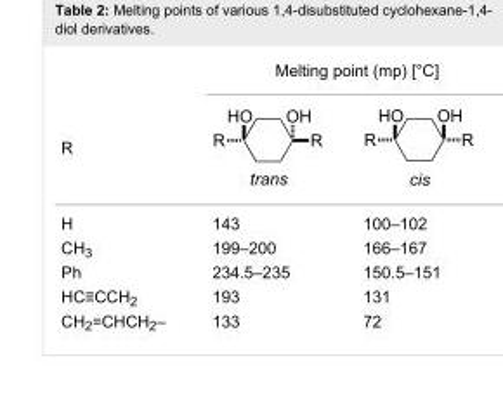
<table><thead><tr><td rowspan="2">R</td><td colspan="2">Melting point (mp) [°C]</td></tr><tr><td></td><td></td></tr></thead><tbody><tr><td>H</td><td>143</td><td>100–102</td></tr><tr><td>CH<sub>3</sub></td><td>199–200</td><td>166–167</td></tr><tr><td>Ph</td><td>234.5–235</td><td>150.5–151</td></tr><tr><td>HC≡CCH<sub>2</sub></td><td>193</td><td>131</td></tr><tr><td>CH<sub>2</sub>=CHCH<sub>2</sub>–</td><td>133</td><td>72</td></tr></tbody></table>